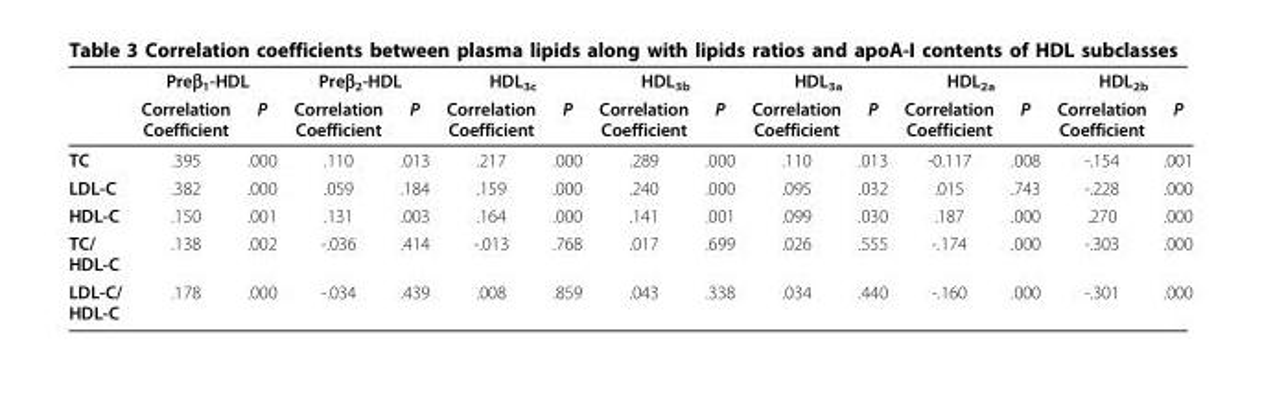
<table><thead><tr><td rowspan="2"></td><td colspan="2">Preβ<sub>1</sub>-HDL</td><td colspan="2">Preβ<sub>2</sub>-HDL</td><td colspan="2">HDL<sub>3c</sub></td><td colspan="2">HDL<sub>3b</sub></td><td colspan="2">HDL<sub>3a</sub></td><td colspan="2">HDL<sub>2a</sub></td><td colspan="2">HDL<sub>2b</sub></td></tr><tr><td>Correlation Coefficient</td><td>P</td><td>Correlation Coefficient</td><td>P</td><td>Correlation Coefficient</td><td>P</td><td>Correlation Coefficient</td><td>P</td><td>Correlation Coefficient</td><td>P</td><td>Correlation Coefficient</td><td>P</td><td>Correlation Coefficient</td><td>P</td></tr></thead><tbody><tr><td>TC</td><td>.395</td><td>.000</td><td>.110</td><td>.013</td><td>.217</td><td>.000</td><td>.289</td><td>.000</td><td>.110</td><td>.013</td><td>-0.117</td><td>.008</td><td>-.154</td><td>.001</td></tr><tr><td>LDL-C</td><td>.382</td><td>.000</td><td>.059</td><td>.184</td><td>.159</td><td>.000</td><td>.240</td><td>.000</td><td>.095</td><td>.032</td><td>.015</td><td>.743</td><td>-.228</td><td>.000</td></tr><tr><td>HDL-C</td><td>.150</td><td>.001</td><td>.131</td><td>.003</td><td>.164</td><td>.000</td><td>.141</td><td>.001</td><td>.099</td><td>.030</td><td>.187</td><td>.000</td><td>.270</td><td>.000</td></tr><tr><td>TC/ HDL-C</td><td>.138</td><td>.002</td><td>-.036</td><td>.414</td><td>-.013</td><td>.768</td><td>.017</td><td>.699</td><td>.026</td><td>.555</td><td>-.174</td><td>.000</td><td>-.303</td><td>.000</td></tr><tr><td>LDL-C/ HDL-C</td><td>.178</td><td>.000</td><td>-.034</td><td>.439</td><td>.008</td><td>.859</td><td>.043</td><td>.338</td><td>.034</td><td>.440</td><td>-.160</td><td>.000</td><td>-.301</td><td>.000</td></tr></tbody></table>